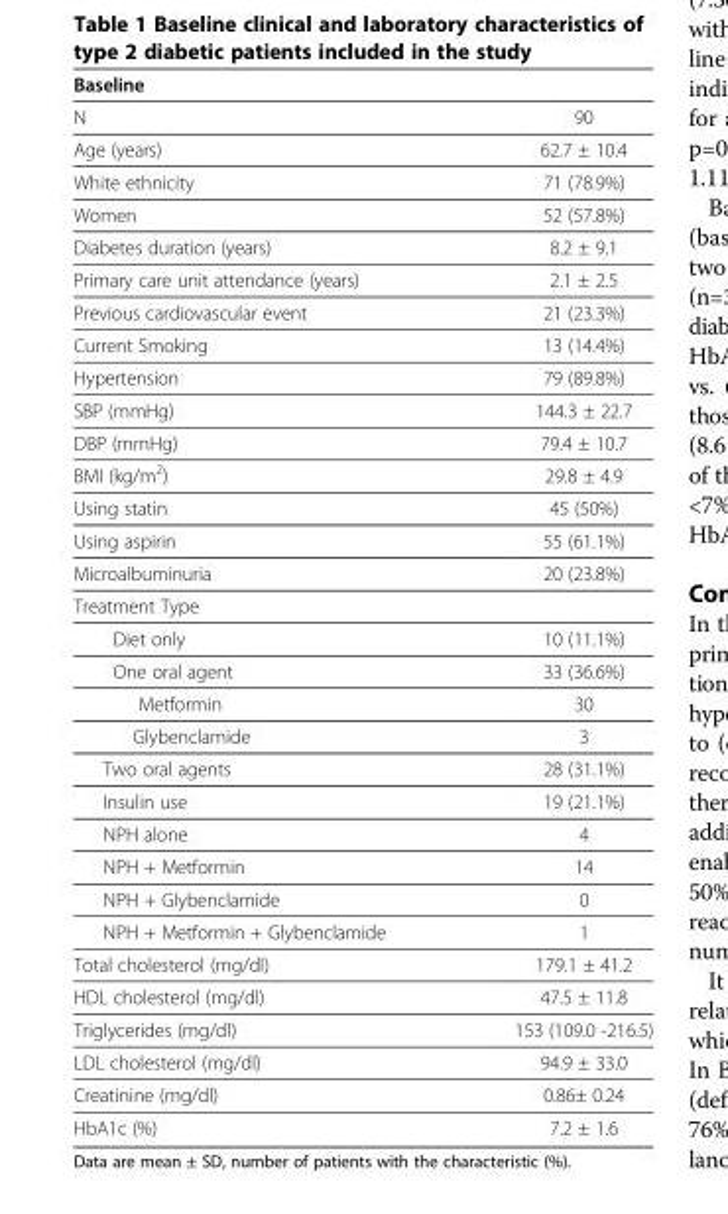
<table><thead><tr><td>Baseline</td><td></td></tr></thead><tbody><tr><td>N</td><td>90</td></tr><tr><td>Age (years)</td><td>62.7 ± 10.4</td></tr><tr><td>White ethnicity</td><td>71 (78.9%)</td></tr><tr><td>Women</td><td>52 (57.8%)</td></tr><tr><td>Diabetes duration (years)</td><td>8.2 ± 9.1</td></tr><tr><td>Primary care unit attendance (years)</td><td>2.1 ± 2.5</td></tr><tr><td>Previous cardiovascular event</td><td>21 (23.3%)</td></tr><tr><td>Current Smoking</td><td>13 (14.4%)</td></tr><tr><td>Hypertension</td><td>79 (89.8%)</td></tr><tr><td>SBP (mmHg)</td><td>144.3 ± 22.7</td></tr><tr><td>DBP (mmHg)</td><td>79.4 ± 10.7</td></tr><tr><td>BMI (kg/m<sup>2</sup>)</td><td>29.8 ± 4.9</td></tr><tr><td>Using statin</td><td>45 (50%)</td></tr><tr><td>Using aspirin</td><td>55 (61.1%)</td></tr><tr><td>Microalbuminuria</td><td>20 (23.8%)</td></tr><tr><td colspan="2">Treatment Type</td></tr><tr><td>Diet only</td><td>10 (11.1%)</td></tr><tr><td>One oral agent</td><td>33 (36.6%)</td></tr><tr><td>Metformin</td><td>30</td></tr><tr><td>Glybenclamide</td><td>3</td></tr><tr><td>Two oral agents</td><td>28 (31.1%)</td></tr><tr><td>Insulin use</td><td>19 (21.1%)</td></tr><tr><td>NPH alone</td><td>4</td></tr><tr><td>NPH + Metformin</td><td>14</td></tr><tr><td>NPH + Glybenclamide</td><td>0</td></tr><tr><td>NPH + Metformin + Glybenclamide</td><td>1</td></tr><tr><td>Total cholesterol (mg/dl)</td><td>179.1 ± 41.2</td></tr><tr><td>HDL cholesterol (mg/dl)</td><td>47.5 ± 11.8</td></tr><tr><td>Triglycerides (mg/dl)</td><td>153 (109.0 -216.5)</td></tr><tr><td>LDL cholesterol (mg/dl)</td><td>94.9 ± 33.0</td></tr><tr><td>Creatinine (mg/dl)</td><td>0.86± 0.24</td></tr><tr><td>HbA1c (%)</td><td>7.2 ± 1.6</td></tr></tbody></table>